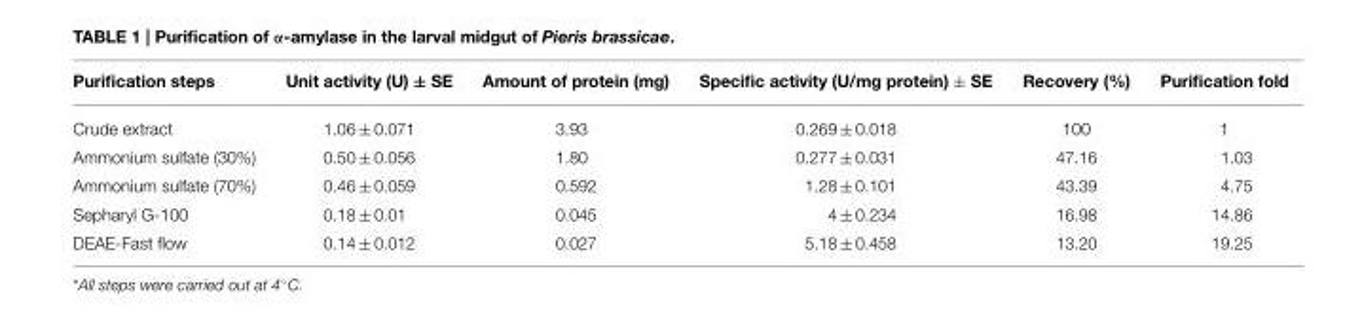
<table><thead><tr><td>Purification steps</td><td>Unit activity (U) ± SE</td><td>Amount of protein (mg)</td><td>Specific activity (U/mg protein) ± SE</td><td>Recovery (%)</td><td>Purification fold</td></tr></thead><tbody><tr><td>Crude extract</td><td>1.06 ± 0.071</td><td>3.93</td><td>0.269 ± 0.018</td><td>100</td><td>1</td></tr><tr><td>Ammonium sulfate (30%)</td><td>0.50 ± 0.056</td><td>1.80</td><td>0.277 ± 0.031</td><td>47.16</td><td>1.03</td></tr><tr><td>Ammonium sulfate (70%)</td><td>0.46 ± 0.059</td><td>0.592</td><td>1.28 ± 0.101</td><td>43.39</td><td>4.75</td></tr><tr><td>Sepharyl G-100</td><td>0.18 ± 0.01</td><td>0.045</td><td>4 ± 0.234</td><td>16.98</td><td>14.86</td></tr><tr><td>DEAE-Fast flow</td><td>0.14 ± 0.012</td><td>0.027</td><td>5.18 ± 0.458</td><td>13.20</td><td>19.25</td></tr></tbody></table>